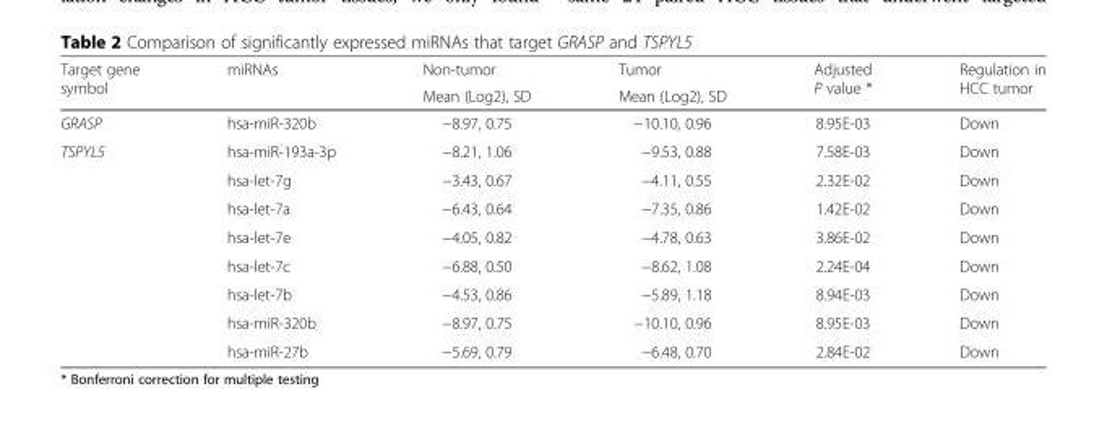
<table><thead><tr><td rowspan="2">Target gene symbol</td><td rowspan="2">miRNAs</td><td rowspan="2">Non-tumor Mean (Log2), SD</td><td rowspan="2">Tumor Mean (Log2), SD</td><td rowspan="2">Adjusted P value *</td><td rowspan="2">Regulation in HCC tumor</td></tr><tr></tr></thead><tbody><tr><td>GRASP</td><td>hsa-miR-320b</td><td>−8.97, 0.75</td><td>−10.10, 0.96</td><td>8.95E-03</td><td>Down</td></tr><tr><td rowspan="8">TSPYL5</td><td>hsa-miR-193a-3p</td><td>−8.21, 1.06</td><td>−9.53, 0.88</td><td>7.58E-03</td><td>Down</td></tr><tr><td>hsa-let-7g</td><td>−3.43, 0.67</td><td>−4.11, 0.55</td><td>2.32E-02</td><td>Down</td></tr><tr><td>hsa-let-7a</td><td>−6.43, 0.64</td><td>−7.35, 0.86</td><td>1.42E-02</td><td>Down</td></tr><tr><td>hsa-let-7e</td><td>−4.05, 0.82</td><td>−4.78, 0.63</td><td>3.86E-02</td><td>Down</td></tr><tr><td>hsa-let-7c</td><td>−6.88, 0.50</td><td>−8.62, 1.08</td><td>2.24E-04</td><td>Down</td></tr><tr><td>hsa-let-7b</td><td>−4.53, 0.86</td><td>−5.89, 1.18</td><td>8.94E-03</td><td>Down</td></tr><tr><td>hsa-miR-320b</td><td>−8.97, 0.75</td><td>−10.10, 0.96</td><td>8.95E-03</td><td>Down</td></tr><tr><td>hsa-miR-27b</td><td>−5.69, 0.79</td><td>−6.48, 0.70</td><td>2.84E-02</td><td>Down</td></tr></tbody></table>